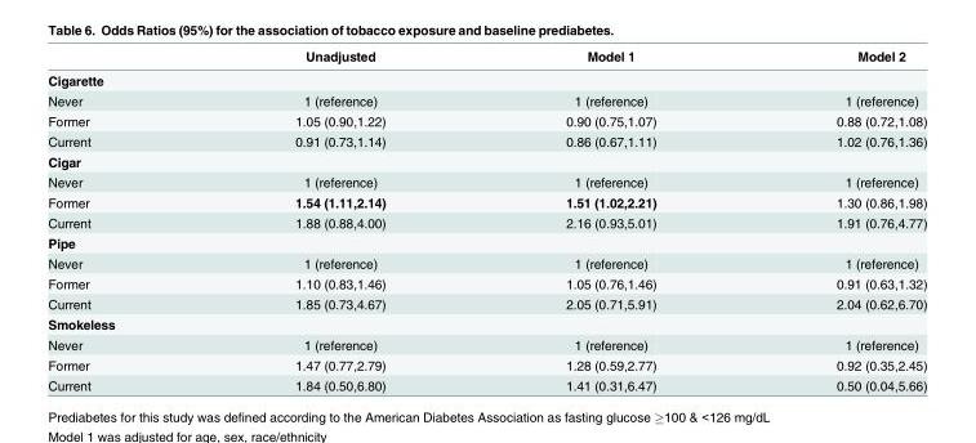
<table><thead><tr><td></td><td>Unadjusted</td><td>Model 1</td><td>Model 2</td></tr></thead><tbody><tr><td colspan="4">Cigarette</td></tr><tr><td>Never</td><td>1 (reference)</td><td>1 (reference)</td><td>1 (reference)</td></tr><tr><td>Former</td><td>1.05 (0.90,1.22)</td><td>0.90 (0.75,1.07)</td><td>0.88 (0.72,1.08)</td></tr><tr><td>Current</td><td>0.91 (0.73,1.14)</td><td>0.86 (0.67,1.11)</td><td>1.02 (0.76,1.36)</td></tr><tr><td colspan="4">Cigar</td></tr><tr><td>Never</td><td>1 (reference)</td><td>1 (reference)</td><td>1 (reference)</td></tr><tr><td>Former</td><td>1.54 (1.11,2.14)</td><td>1.51 (1.02,2.21)</td><td>1.30 (0.86,1.98)</td></tr><tr><td>Current</td><td>1.88 (0.88,4.00)</td><td>2.16 (0.93,5.01)</td><td>1.91 (0.76,4.77)</td></tr><tr><td colspan="4">Pipe</td></tr><tr><td>Never</td><td>1 (reference)</td><td>1 (reference)</td><td>1 (reference)</td></tr><tr><td>Former</td><td>1.10 (0.83,1.46)</td><td>1.05 (0.76,1.46)</td><td>0.91 (0.63,1.32)</td></tr><tr><td>Current</td><td>1.85 (0.73,4.67)</td><td>2.05 (0.71,5.91)</td><td>2.04 (0.62,6.70)</td></tr><tr><td colspan="4">Smokeless</td></tr><tr><td>Never</td><td>1 (reference)</td><td>1 (reference)</td><td>1 (reference)</td></tr><tr><td>Former</td><td>1.47 (0.77,2.79)</td><td>1.28 (0.59,2.77)</td><td>0.92 (0.35,2.45)</td></tr><tr><td>Current</td><td>1.84 (0.50,6.80)</td><td>1.41 (0.31,6.47)</td><td>0.50 (0.04,5.66)</td></tr></tbody></table>